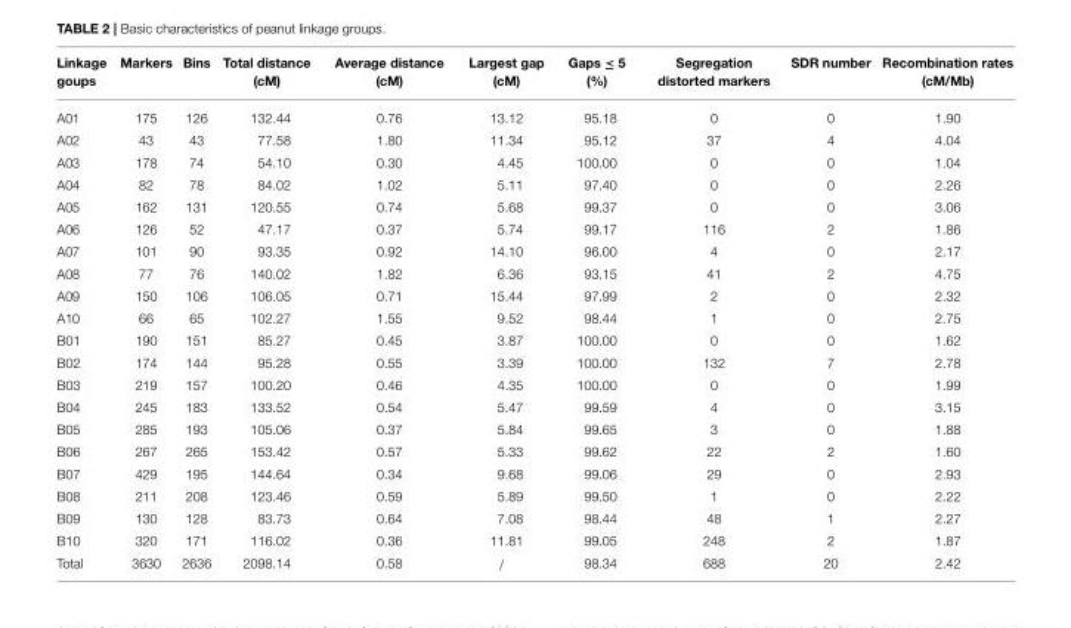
<table><thead><tr><td>Linkage goups</td><td>Markers</td><td>Bins</td><td>Total distance (cM)</td><td>Average distance (cM)</td><td>Largest gap (cM)</td><td>Gaps ≤ 5 (%)</td><td>Segregation distorted markers</td><td>SDR number</td><td>Recombination rates (cM/Mb)</td></tr></thead><tbody><tr><td>A01</td><td>175</td><td>126</td><td>132.44</td><td>0.76</td><td>13.12</td><td>95.18</td><td>0</td><td>0</td><td>1.90</td></tr><tr><td>A02</td><td>43</td><td>43</td><td>77.58</td><td>1.80</td><td>11.34</td><td>95.12</td><td>37</td><td>4</td><td>4.04</td></tr><tr><td>A03</td><td>178</td><td>74</td><td>54.10</td><td>0.30</td><td>4.45</td><td>100.00</td><td>0</td><td>0</td><td>1.04</td></tr><tr><td>A04</td><td>82</td><td>78</td><td>84.02</td><td>1.02</td><td>5.11</td><td>97.40</td><td>0</td><td>0</td><td>2.26</td></tr><tr><td>A05</td><td>162</td><td>131</td><td>120.55</td><td>0.74</td><td>5.68</td><td>99.37</td><td>0</td><td>0</td><td>3.06</td></tr><tr><td>A06</td><td>126</td><td>52</td><td>47.17</td><td>0.37</td><td>5.74</td><td>99.17</td><td>116</td><td>2</td><td>1.86</td></tr><tr><td>A07</td><td>101</td><td>90</td><td>93.35</td><td>0.92</td><td>14.10</td><td>96.00</td><td>4</td><td>0</td><td>2.17</td></tr><tr><td>A08</td><td>77</td><td>76</td><td>140.02</td><td>1.82</td><td>6.36</td><td>93.15</td><td>41</td><td>2</td><td>4.75</td></tr><tr><td>A09</td><td>150</td><td>106</td><td>106.05</td><td>0.71</td><td>15.44</td><td>97.99</td><td>2</td><td>0</td><td>2.32</td></tr><tr><td>A10</td><td>66</td><td>65</td><td>102.27</td><td>1.55</td><td>9.52</td><td>98.44</td><td>1</td><td>0</td><td>2.75</td></tr><tr><td>B01</td><td>190</td><td>151</td><td>85.27</td><td>0.45</td><td>3.87</td><td>100.00</td><td>0</td><td>0</td><td>1.62</td></tr><tr><td>B02</td><td>174</td><td>144</td><td>95.28</td><td>0.55</td><td>3.39</td><td>100.00</td><td>132</td><td>7</td><td>2.78</td></tr><tr><td>B03</td><td>219</td><td>157</td><td>100.20</td><td>0.46</td><td>4.35</td><td>100.00</td><td>0</td><td>0</td><td>1.99</td></tr><tr><td>B04</td><td>245</td><td>183</td><td>133.52</td><td>0.54</td><td>5.47</td><td>99.59</td><td>4</td><td>0</td><td>3.15</td></tr><tr><td>B05</td><td>285</td><td>193</td><td>105.06</td><td>0.37</td><td>5.84</td><td>99.65</td><td>3</td><td>0</td><td>1.88</td></tr><tr><td>B06</td><td>267</td><td>265</td><td>153.42</td><td>0.57</td><td>5.33</td><td>99.62</td><td>22</td><td>2</td><td>1.60</td></tr><tr><td>B07</td><td>429</td><td>195</td><td>144.64</td><td>0.34</td><td>9.68</td><td>99.06</td><td>29</td><td>0</td><td>2.93</td></tr><tr><td>B08</td><td>211</td><td>208</td><td>123.46</td><td>0.59</td><td>5.89</td><td>99.50</td><td>1</td><td>0</td><td>2.22</td></tr><tr><td>B09</td><td>130</td><td>128</td><td>83.73</td><td>0.64</td><td>7.08</td><td>98.44</td><td>48</td><td>1</td><td>2.27</td></tr><tr><td>B10</td><td>320</td><td>171</td><td>116.02</td><td>0.36</td><td>11.81</td><td>99.05</td><td>248</td><td>2</td><td>1.87</td></tr><tr><td>Total</td><td>3630</td><td>2636</td><td>2098.14</td><td>0.58</td><td>/</td><td>98.34</td><td>688</td><td>20</td><td>2.42</td></tr></tbody></table>